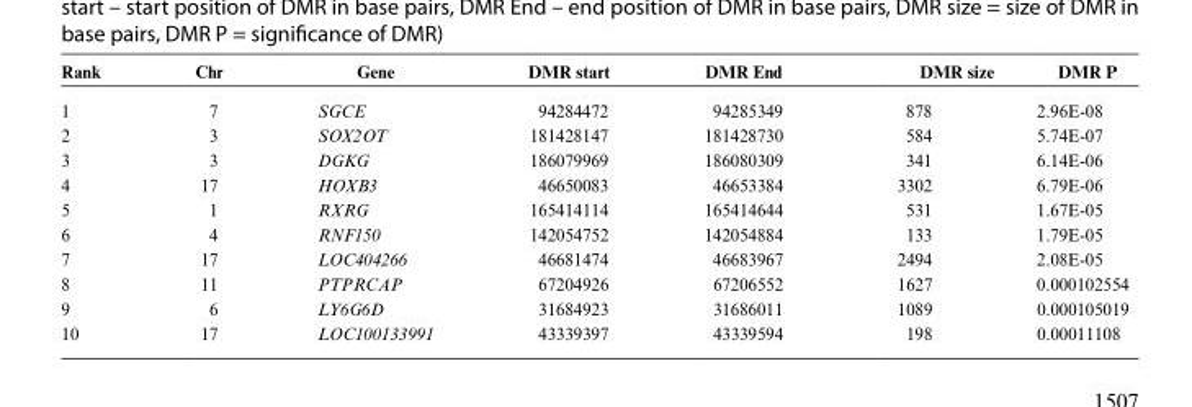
<table><thead><tr><td>Rank</td><td>Chr</td><td>Gene</td><td>DMR start</td><td>DMR End</td><td>DMR size</td><td>DMR P</td></tr></thead><tbody><tr><td>1</td><td>7</td><td>SGCE</td><td>94284472</td><td>94285349</td><td>878</td><td>2.96E-08</td></tr><tr><td>2</td><td>3</td><td>SOX2OT</td><td>181428147</td><td>181428730</td><td>584</td><td>5.74E-07</td></tr><tr><td>3</td><td>3</td><td>DGKG</td><td>186079969</td><td>186080309</td><td>341</td><td>6.14E-06</td></tr><tr><td>4</td><td>17</td><td>HOXB3</td><td>46650083</td><td>46653384</td><td>3302</td><td>6.79E-06</td></tr><tr><td>5</td><td>1</td><td>RXRG</td><td>165414114</td><td>165414644</td><td>531</td><td>1.67E-05</td></tr><tr><td>6</td><td>4</td><td>RNF150</td><td>142054752</td><td>142054884</td><td>133</td><td>1.79E-05</td></tr><tr><td>7</td><td>17</td><td>LOC404266</td><td>46681474</td><td>46683967</td><td>2494</td><td>2.08E-05</td></tr><tr><td>8</td><td>11</td><td>PTPRCAP</td><td>67204926</td><td>67206552</td><td>1627</td><td>0.000102554</td></tr><tr><td>9</td><td>6</td><td>LY6G6D</td><td>31684923</td><td>31686011</td><td>1089</td><td>0.000105019</td></tr><tr><td>10</td><td>17</td><td>LOC100133991</td><td>43339397</td><td>43339594</td><td>198</td><td>0.00011108</td></tr></tbody></table>